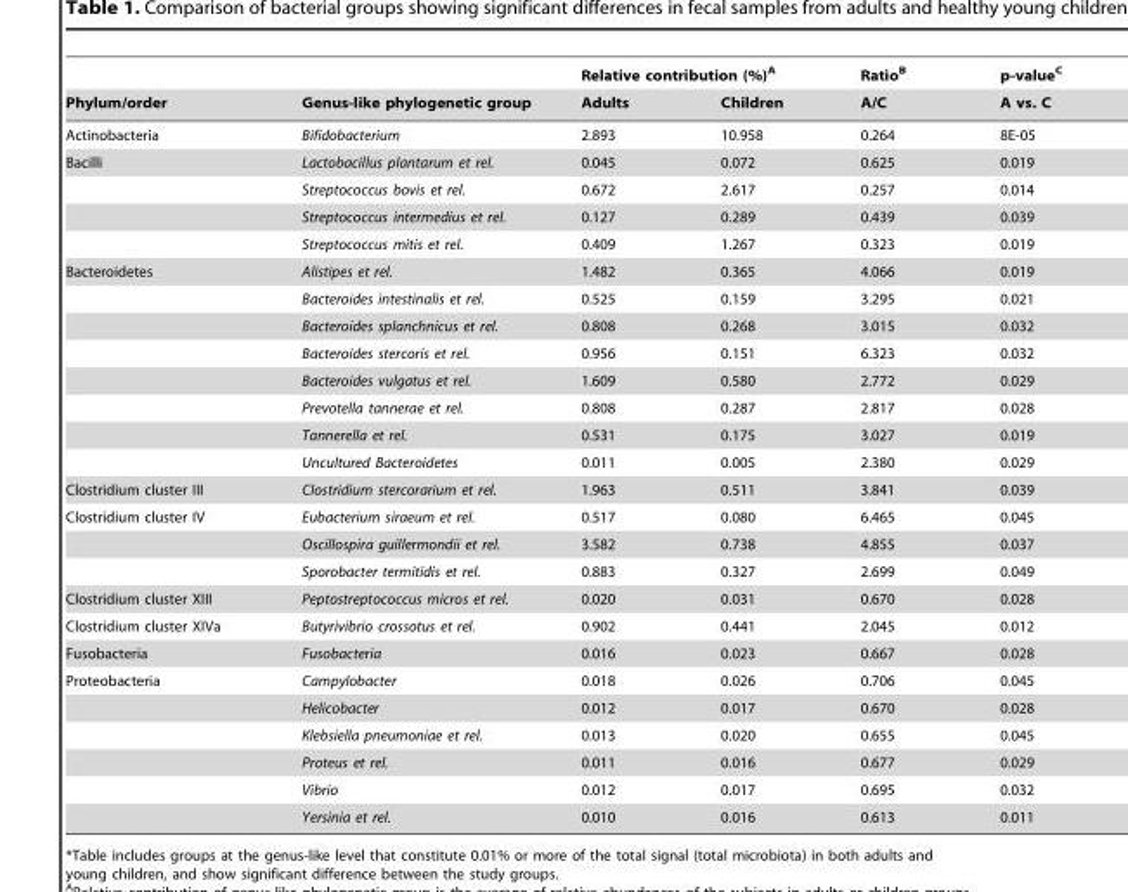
<table><thead><tr><td rowspan="2">Phylum/order</td><td rowspan="2">Genus-like phylogenetic group</td><td colspan="2">Relative contribution (%)<sup>A</sup></td><td rowspan="2">Ratio<sup>B</sup> A/C</td><td rowspan="2">p-value<sup>C</sup> A vs. C</td></tr><tr><td>Adults</td><td>Children</td></tr></thead><tbody><tr><td>Actinobacteria</td><td>Bifidobacterium</td><td>2.893</td><td>10.958</td><td>0.264</td><td>8E-05</td></tr><tr><td rowspan="4">Bacilli</td><td>Lactobacillus plantarum et rel.</td><td>0.045</td><td>0.072</td><td>0.625</td><td>0.019</td></tr><tr><td>Streptococcus bovis et rel.</td><td>0.672</td><td>2.617</td><td>0.257</td><td>0.014</td></tr><tr><td>Streptococcus intermedius et rel.</td><td>0.127</td><td>0.289</td><td>0.439</td><td>0.039</td></tr><tr><td>Streptococcus mitis et rel.</td><td>0.409</td><td>1.267</td><td>0.323</td><td>0.019</td></tr><tr><td rowspan="8">Bacteroidetes</td><td>Alistipes et rel.</td><td>1.482</td><td>0.365</td><td>4.066</td><td>0.019</td></tr><tr><td>Bacteroides intestinalis et rel.</td><td>0.525</td><td>0.159</td><td>3.295</td><td>0.021</td></tr><tr><td>Bacteroides splanchnicus et rel.</td><td>0.808</td><td>0.268</td><td>3.015</td><td>0.032</td></tr><tr><td>Bacteroides stercoris et rel.</td><td>0.956</td><td>0.151</td><td>6.323</td><td>0.032</td></tr><tr><td>Bacteroides vulgatus et rel.</td><td>1.609</td><td>0.580</td><td>2.772</td><td>0.029</td></tr><tr><td>Prevotella tannerae et rel.</td><td>0.808</td><td>0.287</td><td>2.817</td><td>0.028</td></tr><tr><td>Tannerella et rel.</td><td>0.531</td><td>0.175</td><td>3.027</td><td>0.019</td></tr><tr><td>Uncultured Bacteroidetes</td><td>0.011</td><td>0.005</td><td>2.380</td><td>0.029</td></tr><tr><td>Clostridium cluster III</td><td>Clostridium stercorarium et rel.</td><td>1.963</td><td>0.511</td><td>3.841</td><td>0.039</td></tr><tr><td rowspan="3">Clostridium cluster IV</td><td>Eubacterium siraeum et rel.</td><td>0.517</td><td>0.080</td><td>6.465</td><td>0.045</td></tr><tr><td>Oscillospira guillermondii et rel.</td><td>3.582</td><td>0.738</td><td>4.855</td><td>0.037</td></tr><tr><td>Sporobacter termitidis et rel.</td><td>0.883</td><td>0.327</td><td>2.699</td><td>0.049</td></tr><tr><td>Clostridium cluster XIII</td><td>Peptostreptococcus micros et rel.</td><td>0.020</td><td>0.031</td><td>0.670</td><td>0.028</td></tr><tr><td>Clostridium cluster XIVa</td><td>Butyrivibrio crossotus et rel.</td><td>0.902</td><td>0.441</td><td>2.045</td><td>0.012</td></tr><tr><td>Fusobacteria</td><td>Fusobacteria</td><td>0.016</td><td>0.023</td><td>0.667</td><td>0.028</td></tr><tr><td rowspan="6">Proteobacteria</td><td>Campylobacter</td><td>0.018</td><td>0.026</td><td>0.706</td><td>0.045</td></tr><tr><td>Helicobacter</td><td>0.012</td><td>0.017</td><td>0.670</td><td>0.028</td></tr><tr><td>Klebsiella pneumoniae et rel.</td><td>0.013</td><td>0.020</td><td>0.655</td><td>0.045</td></tr><tr><td>Proteus et rel.</td><td>0.011</td><td>0.016</td><td>0.677</td><td>0.029</td></tr><tr><td>Vibrio</td><td>0.012</td><td>0.017</td><td>0.695</td><td>0.032</td></tr><tr><td>Yersinia et rel.</td><td>0.010</td><td>0.016</td><td>0.613</td><td>0.011</td></tr></tbody></table>